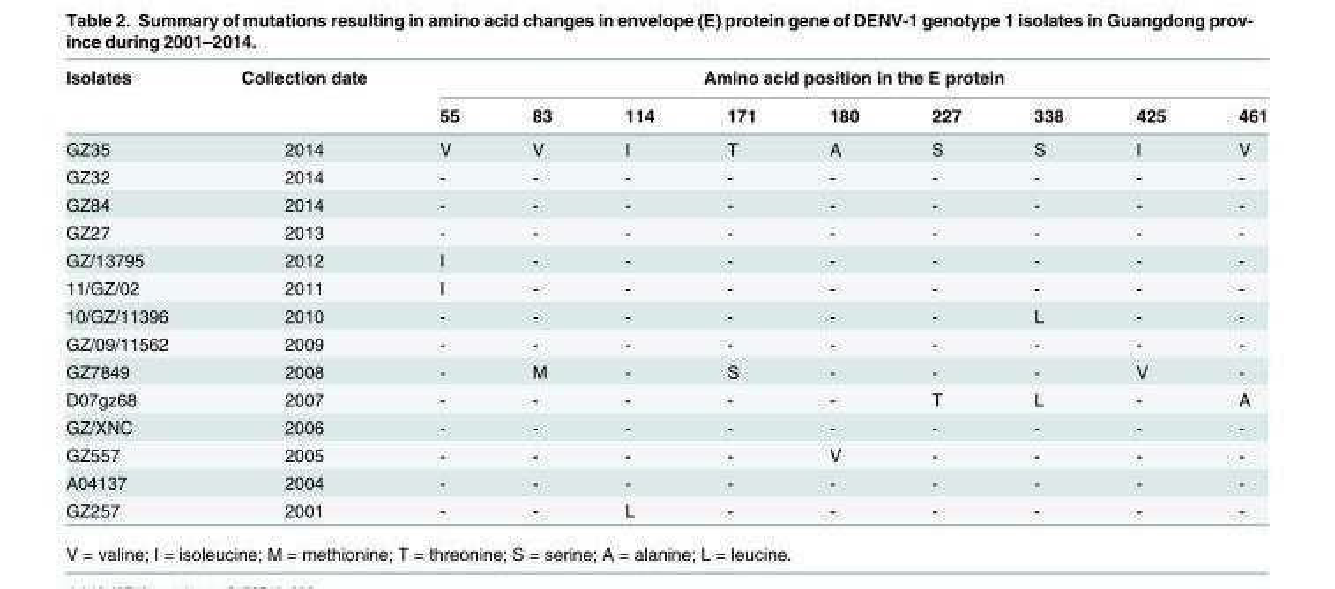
<table><thead><tr><td rowspan="2">Isolates</td><td rowspan="2">Collection date</td><td colspan="9">Amino acid position in the E protein</td></tr><tr><td>55</td><td>83</td><td>114</td><td>171</td><td>180</td><td>227</td><td>338</td><td>425</td><td>461</td></tr></thead><tbody><tr><td>GZ35</td><td>2014</td><td>V</td><td>V</td><td>I</td><td>T</td><td>A</td><td>S</td><td>S</td><td>I</td><td>V</td></tr><tr><td>GZ32</td><td>2014</td><td>-</td><td>-</td><td>-</td><td>-</td><td>-</td><td>-</td><td>-</td><td>-</td><td>-</td></tr><tr><td>GZ84</td><td>2014</td><td>-</td><td>-</td><td>-</td><td>-</td><td>-</td><td>-</td><td>-</td><td>-</td><td>-</td></tr><tr><td>GZ27</td><td>2013</td><td>-</td><td>-</td><td>-</td><td>-</td><td>-</td><td>-</td><td>-</td><td>-</td><td>-</td></tr><tr><td>GZ/13795</td><td>2012</td><td>I</td><td>-</td><td>-</td><td>-</td><td>-</td><td>-</td><td>-</td><td>-</td><td>-</td></tr><tr><td>11/GZ/02</td><td>2011</td><td>I</td><td>-</td><td>-</td><td>-</td><td>-</td><td>-</td><td>-</td><td>-</td><td>-</td></tr><tr><td>10/GZ/11396</td><td>2010</td><td>-</td><td>-</td><td>-</td><td>-</td><td>-</td><td>-</td><td>L</td><td>-</td><td>-</td></tr><tr><td>GZ/09/11562</td><td>2009</td><td>-</td><td>-</td><td>-</td><td>-</td><td>-</td><td>-</td><td>-</td><td>-</td><td>-</td></tr><tr><td>GZ7849</td><td>2008</td><td>-</td><td>M</td><td>-</td><td>S</td><td>-</td><td>-</td><td>-</td><td>V</td><td>-</td></tr><tr><td>D07gz68</td><td>2007</td><td>-</td><td>-</td><td>-</td><td>-</td><td>-</td><td>T</td><td>L</td><td>-</td><td>A</td></tr><tr><td>GZ/XNC</td><td>2006</td><td>-</td><td>-</td><td>-</td><td>-</td><td>-</td><td>-</td><td>-</td><td>-</td><td>-</td></tr><tr><td>GZ557</td><td>2005</td><td>-</td><td>-</td><td>-</td><td>-</td><td>V</td><td>-</td><td>-</td><td>-</td><td>-</td></tr><tr><td>A04137</td><td>2004</td><td>-</td><td>-</td><td>-</td><td>-</td><td>-</td><td>-</td><td>-</td><td>-</td><td>-</td></tr><tr><td>GZ257</td><td>2001</td><td>-</td><td>-</td><td>L</td><td>-</td><td>-</td><td>-</td><td>-</td><td>-</td><td>-</td></tr></tbody></table>